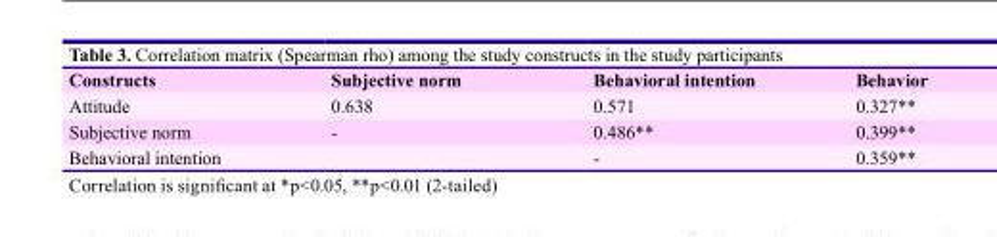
<table><thead><tr><td>Constructs</td><td>Subjective norm</td><td>Behavioral intention</td><td>Behavior</td></tr></thead><tbody><tr><td>Attitude</td><td>0.638</td><td>0.571</td><td>0.327**</td></tr><tr><td>Subjective norm</td><td>-</td><td>0.486**</td><td>0.399**</td></tr><tr><td>Behavioral intention</td><td></td><td>-</td><td>0.359**</td></tr></tbody></table>